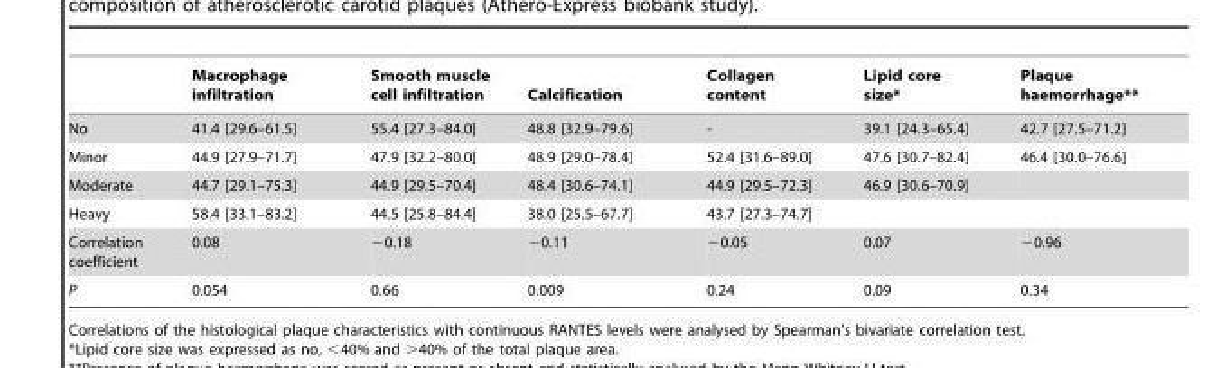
<table><thead><tr><td></td><td>Macrophage infiltration</td><td>Smooth muscle cell infiltration</td><td>Calcification</td><td>Collagen content</td><td>Lipid core size*</td><td>Plaque haemorrhage**</td></tr></thead><tbody><tr><td>No</td><td>41.4 [29.6–61.5]</td><td>55.4 [27.3–84.0]</td><td>48.8 [32.9–79.6]</td><td>-</td><td>39.1 [24.3–65.4]</td><td>42.7 [27.5–71.2]</td></tr><tr><td>Minor</td><td>44.9 [27.9–71.7]</td><td>47.9 [32.2–80.0]</td><td>48.9 [29.0–78.4]</td><td>52.4 [31.6–89.0]</td><td>47.6 [30.7–82.4]</td><td>46.4 [30.0–76.6]</td></tr><tr><td>Moderate</td><td>44.7 [29.1–75.3]</td><td>44.9 [29.5–70.4]</td><td>48.4 [30.6–74.1]</td><td>44.9 [29.5–72.3]</td><td>46.9 [30.6–70.9]</td><td></td></tr><tr><td>Heavy</td><td>58.4 [33.1–83.2]</td><td>44.5 [25.8–84.4]</td><td>38.0 [25.5–67.7]</td><td>43.7 [27.3–74.7]</td><td></td><td></td></tr><tr><td>Correlation coefficient</td><td>0.08</td><td>−0.18</td><td>−0.11</td><td>−0.05</td><td>0.07</td><td>−0.96</td></tr><tr><td>P</td><td>0.054</td><td>0.66</td><td>0.009</td><td>0.24</td><td>0.09</td><td>0.34</td></tr></tbody></table>